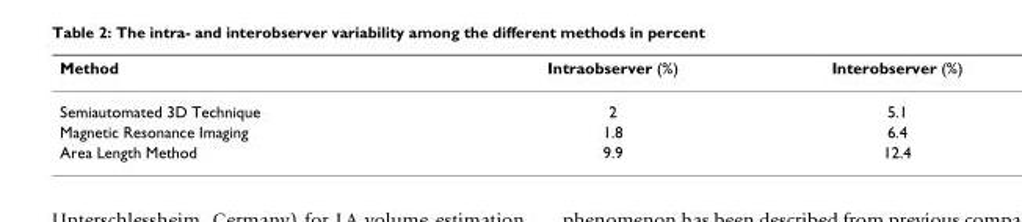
<table><thead><tr><td>Method</td><td>Intraobserver (%)</td><td>Interobserver (%)</td></tr></thead><tbody><tr><td>Semiautomated 3D Technique</td><td>2</td><td>5.1</td></tr><tr><td>Magnetic Resonance Imaging</td><td>1.8</td><td>6.4</td></tr><tr><td>Area Length Method</td><td>9.9</td><td>12.4</td></tr></tbody></table>